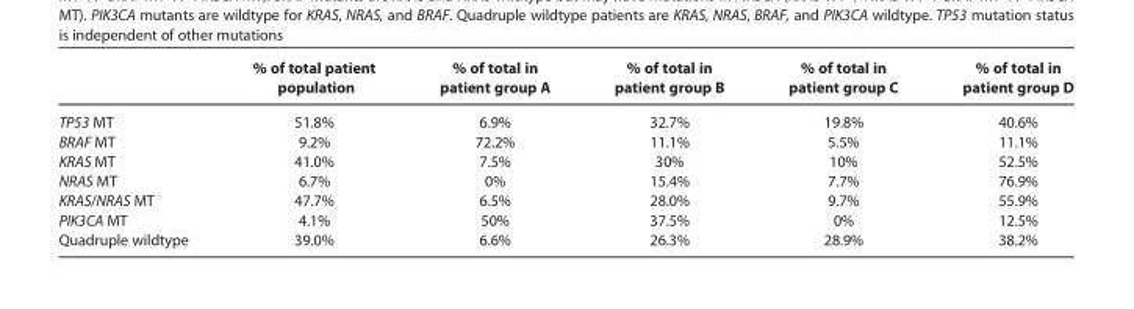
<table><thead><tr><td></td><td>% of total patient population</td><td>% of total in patient group A</td><td>% of total in patient group B</td><td>% of total in patient group C</td><td>% of total in patient group D</td></tr></thead><tbody><tr><td>TP53 MT</td><td>51.8%</td><td>6.9%</td><td>32.7%</td><td>19.8%</td><td>40.6%</td></tr><tr><td>BRAF MT</td><td>9.2%</td><td>72.2%</td><td>11.1%</td><td>5.5%</td><td>11.1%</td></tr><tr><td>KRAS MT</td><td>41.0%</td><td>7.5%</td><td>30%</td><td>10%</td><td>52.5%</td></tr><tr><td>NRAS MT</td><td>6.7%</td><td>0%</td><td>15.4%</td><td>7.7%</td><td>76.9%</td></tr><tr><td>KRAS/NRAS MT</td><td>47.7%</td><td>6.5%</td><td>28.0%</td><td>9.7%</td><td>55.9%</td></tr><tr><td>PIK3CA MT</td><td>4.1%</td><td>50%</td><td>37.5%</td><td>0%</td><td>12.5%</td></tr><tr><td>Quadruple wildtype</td><td>39.0%</td><td>6.6%</td><td>26.3%</td><td>28.9%</td><td>38.2%</td></tr></tbody></table>